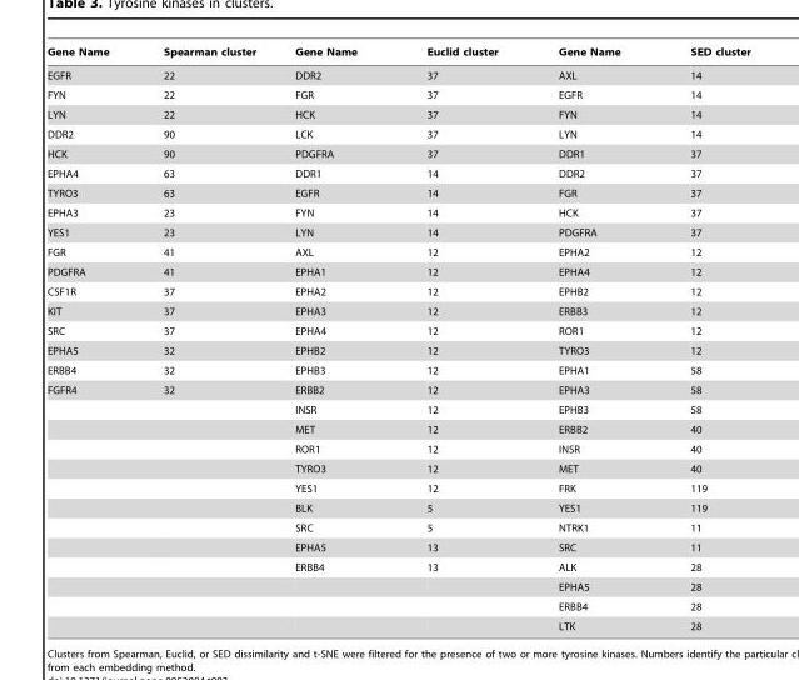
<table><thead><tr><td>Gene Name</td><td>Spearman cluster</td><td>Gene Name</td><td>Euclid cluster</td><td>Gene Name</td><td>SED cluster</td></tr></thead><tbody><tr><td>EGFR</td><td>22</td><td>DDR2</td><td>37</td><td>AXL</td><td>14</td></tr><tr><td>FYN</td><td>22</td><td>FGR</td><td>37</td><td>EGFR</td><td>14</td></tr><tr><td>LYN</td><td>22</td><td>HCK</td><td>37</td><td>FYN</td><td>14</td></tr><tr><td>DDR2</td><td>90</td><td>LCK</td><td>37</td><td>LYN</td><td>14</td></tr><tr><td>HCK</td><td>90</td><td>PDGFRA</td><td>37</td><td>DDR1</td><td>37</td></tr><tr><td>EPHA4</td><td>63</td><td>DDR1</td><td>14</td><td>DDR2</td><td>37</td></tr><tr><td>TYRO3</td><td>63</td><td>EGFR</td><td>14</td><td>FGR</td><td>37</td></tr><tr><td>EPHA3</td><td>23</td><td>FYN</td><td>14</td><td>HCK</td><td>37</td></tr><tr><td>YES1</td><td>23</td><td>LYN</td><td>14</td><td>PDGFRA</td><td>37</td></tr><tr><td>FGR</td><td>41</td><td>AXL</td><td>12</td><td>EPHA2</td><td>12</td></tr><tr><td>PDGFRA</td><td>41</td><td>EPHA1</td><td>12</td><td>EPHA4</td><td>12</td></tr><tr><td>CSF1R</td><td>37</td><td>EPHA2</td><td>12</td><td>EPHB2</td><td>12</td></tr><tr><td>KIT</td><td>37</td><td>EPHA3</td><td>12</td><td>ERBB3</td><td>12</td></tr><tr><td>SRC</td><td>37</td><td>EPHA4</td><td>12</td><td>ROR1</td><td>12</td></tr><tr><td>EPHA5</td><td>32</td><td>EPHB2</td><td>12</td><td>TYRO3</td><td>12</td></tr><tr><td>ERBB4</td><td>32</td><td>EPHB3</td><td>12</td><td>EPHA1</td><td>58</td></tr><tr><td rowspan="13">FGFR4</td><td>32</td><td>ERBB2</td><td>12</td><td>EPHA3</td><td>58</td></tr><tr><td></td><td>INSR</td><td>12</td><td>EPHB3</td><td>58</td></tr><tr><td></td><td>MET</td><td>12</td><td>ERBB2</td><td>40</td></tr><tr><td></td><td>ROR1</td><td>12</td><td>INSR</td><td>40</td></tr><tr><td></td><td>TYRO3</td><td>12</td><td>MET</td><td>40</td></tr><tr><td></td><td>YES1</td><td>12</td><td>FRK</td><td>119</td></tr><tr><td></td><td>BLK</td><td>5</td><td>YES1</td><td>119</td></tr><tr><td></td><td>SRC</td><td>5</td><td>NTRK1</td><td>11</td></tr><tr><td></td><td>EPHA5</td><td>13</td><td>SRC</td><td>11</td></tr><tr><td></td><td>ERBB4</td><td>13</td><td>ALK</td><td>28</td></tr><tr><td></td><td></td><td></td><td>EPHA5</td><td>28</td></tr><tr><td></td><td></td><td></td><td>ERBB4</td><td>28</td></tr><tr><td></td><td></td><td></td><td>LTK</td><td>28</td></tr></tbody></table>